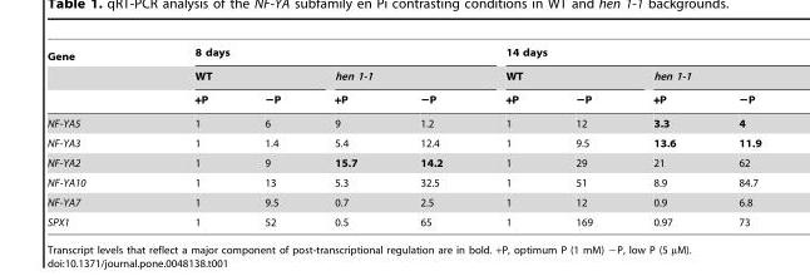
<table><thead><tr><td rowspan="3">Gene</td><td colspan="4">8 days</td><td colspan="4">14 days</td></tr><tr><td colspan="2">WT</td><td colspan="2">hen 1-1</td><td colspan="2">WT</td><td colspan="2">hen 1-1</td></tr><tr><td>+P</td><td>−P</td><td>+P</td><td>−P</td><td>+P</td><td>−P</td><td>+P</td><td>−P</td></tr></thead><tbody><tr><td>NF-YA5</td><td>1</td><td>6</td><td>9</td><td>1.2</td><td>1</td><td>12</td><td>3.3</td><td>4</td></tr><tr><td>NF-YA3</td><td>1</td><td>1.4</td><td>5.4</td><td>12.4</td><td>1</td><td>9.5</td><td>13.6</td><td>11.9</td></tr><tr><td>NF-YA2</td><td>1</td><td>9</td><td>15.7</td><td>14.2</td><td>1</td><td>29</td><td>21</td><td>62</td></tr><tr><td>NF-YA10</td><td>1</td><td>13</td><td>5.3</td><td>32.5</td><td>1</td><td>51</td><td>8.9</td><td>84.7</td></tr><tr><td>NF-YA7</td><td>1</td><td>9.5</td><td>0.7</td><td>2.5</td><td>1</td><td>12</td><td>0.9</td><td>6.8</td></tr><tr><td>SPX1</td><td>1</td><td>52</td><td>0.5</td><td>65</td><td>1</td><td>169</td><td>0.97</td><td>73</td></tr></tbody></table>